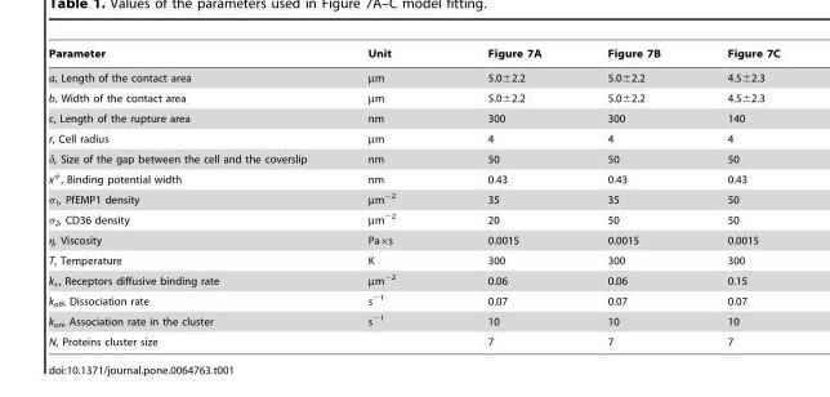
<table><thead><tr><td>Parameter</td><td>Unit</td><td>Figure 7A</td><td>Figure 7B</td><td>Figure 7C</td></tr></thead><tbody><tr><td>a, Length of the contact area</td><td>µm</td><td>5.0±2.2</td><td>5.0±2.2</td><td>4.5±2.3</td></tr><tr><td>b, Width of the contact area</td><td>µm</td><td>5.0±2.2</td><td>5.0±2.2</td><td>4.5±2.3</td></tr><tr><td>c, Length of the rupture area</td><td>nm</td><td>300</td><td>300</td><td>140</td></tr><tr><td>r, Cell radius</td><td>µm</td><td>4</td><td>4</td><td>4</td></tr><tr><td>δ, Size of the gap between the cell and the coverslip</td><td>nm</td><td>50</td><td>50</td><td>50</td></tr><tr><td>x<sup>#</sup>, Binding potential width</td><td>nm</td><td>0.43</td><td>0.43</td><td>0.43</td></tr><tr><td>σ<sub>1</sub>, PfEMP1 density</td><td>µm<sup>−2</sup></td><td>35</td><td>35</td><td>50</td></tr><tr><td>σ<sub>2</sub>, CD36 density</td><td>µm<sup>−2</sup></td><td>20</td><td>50</td><td>50</td></tr><tr><td>η, Viscosity</td><td>Pa×s</td><td>0.0015</td><td>0.0015</td><td>0.0015</td></tr><tr><td>T, Temperature</td><td>K</td><td>300</td><td>300</td><td>300</td></tr><tr><td>k<sub>+</sub>, Receptors diffusive binding rate</td><td>µm<sup>−2</sup></td><td>0.06</td><td>0.06</td><td>0.15</td></tr><tr><td>k<sub>off</sub>, Dissociation rate</td><td>s<sup>−1</sup></td><td>0.07</td><td>0.07</td><td>0.07</td></tr><tr><td>k<sub>on</sub>, Association rate in the cluster</td><td>s<sup>−1</sup></td><td>10</td><td>10</td><td>10</td></tr><tr><td>N, Proteins cluster size</td><td></td><td>7</td><td>7</td><td>7</td></tr></tbody></table>